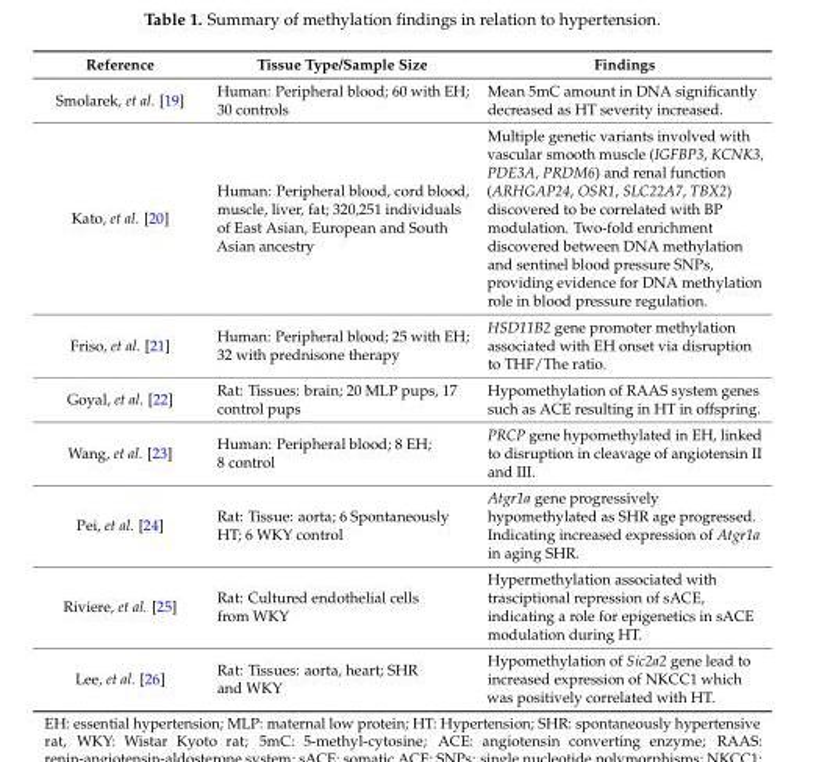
<table><thead><tr><td>Reference</td><td>Tissue Type/Sample Size</td><td>Findings</td></tr></thead><tbody><tr><td>Smolarek, et al. [19]</td><td>Human: Peripheral blood; 60 with EH; 30 controls</td><td>Mean 5mC amount in DNA significantly decreased as HT severity increased.</td></tr><tr><td>Kato, et al. [20]</td><td>Human: Peripheral blood, cord blood, muscle, liver, fat; 320,251 individuals of East Asian, European and South Asian ancestry</td><td>Multiple genetic variants involved with vascular smooth muscle (IGFBP3, KCNK3, PDE3A, PRDM6) and renal function (ARHGAP24, OSR1, SLC22A7, TBX2) discovered to be correlated with BP modulation. Two-fold enrichment discovered between DNA methylation and sentinel blood pressure SNPs, providing evidence for DNA methylation role in blood pressure regulation.</td></tr><tr><td>Friso, et al. [21]</td><td>Human: Peripheral blood; 25 with EH; 32 with prednisone therapy</td><td>HSD11B2 gene promoter methylation associated with EH onset via disruption to THF/The ratio.</td></tr><tr><td>Goyal, et al. [22]</td><td>Rat: Tissues: brain; 20 MLP pups, 17 control pups</td><td>Hypomethylation of RAAS system genes such as ACE resulting in HT in offspring.</td></tr><tr><td>Wang, et al. [23]</td><td>Human: Peripheral blood; 8 EH; 8 control</td><td>PRCP gene hypomethylated in EH, linked to disruption in cleavage of angiotensin II and III.</td></tr><tr><td>Pei, et al. [24]</td><td>Rat: Tissue: aorta; 6 Spontaneously HT; 6 WKY control</td><td>Atgr1a gene progressively hypomethylated as SHR age progressed. Indicating increased expression of Atgr1a in aging SHR.</td></tr><tr><td>Riviere, et al. [25]</td><td>Rat: Cultured endothelial cells from WKY</td><td>Hypermethylation associated with trasciptional repression of sACE, indicating a role for epigenetics in sACE modulation during HT.</td></tr><tr><td>Lee, et al. [26]</td><td>Rat: Tissues: aorta, heart; SHR and WKY</td><td>Hypomethylation of Sic2a2 gene lead to increased expression of NKCC1 which was positively correlated with HT.</td></tr></tbody></table>